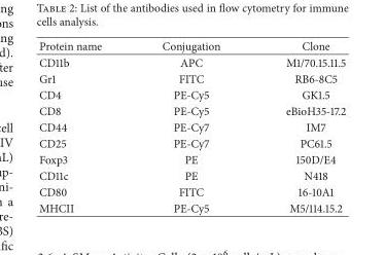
<table><thead><tr><td>Protein name</td><td>Conjugation</td><td>Clone</td></tr></thead><tbody><tr><td>CD11b</td><td>APC</td><td>M1/70.15.11.5</td></tr><tr><td>Gr1</td><td>FITC</td><td>RB6-8C5</td></tr><tr><td>CD4</td><td>PE-Cy5</td><td>GK1.5</td></tr><tr><td>CD8</td><td>PE-Cy5</td><td>eBioH35-17.2</td></tr><tr><td>CD44</td><td>PE-Cy7</td><td>IM7</td></tr><tr><td>CD25</td><td>PE-Cy7</td><td>PC61.5</td></tr><tr><td>Foxp3</td><td>PE</td><td>150D/E4</td></tr><tr><td>CD11c</td><td>PE</td><td>N418</td></tr><tr><td>CD80</td><td>FITC</td><td>16-10A1</td></tr><tr><td>MHCII</td><td>PE-Cy5</td><td>M5/114.15.2</td></tr></tbody></table>